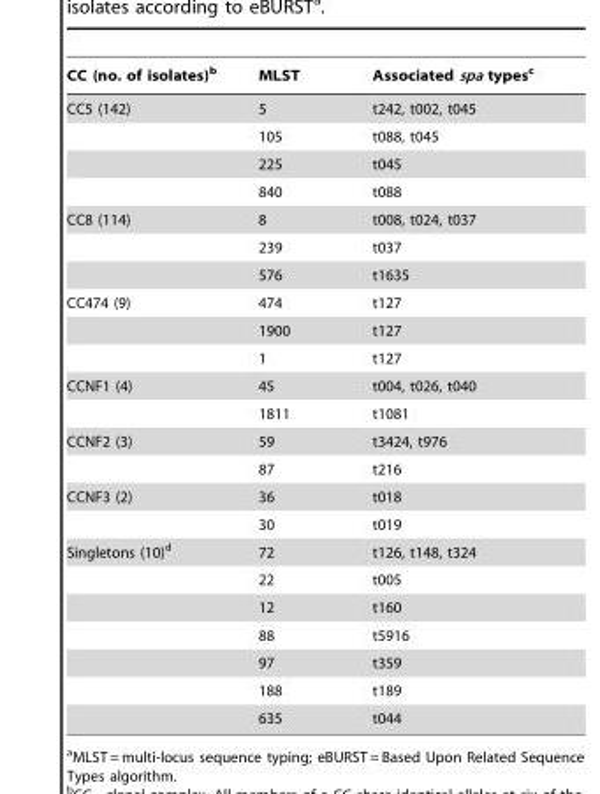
<table><thead><tr><td>CC (no. of isolates)<sup>b</sup></td><td>MLST</td><td>Associated spa types<sup>c</sup></td></tr></thead><tbody><tr><td rowspan="4">CC5 (142)</td><td>5</td><td>t242, t002, t045</td></tr><tr><td>105</td><td>t088, t045</td></tr><tr><td>225</td><td>t045</td></tr><tr><td>840</td><td>t088</td></tr><tr><td rowspan="3">CC8 (114)</td><td>8</td><td>t008, t024, t037</td></tr><tr><td>239</td><td>t037</td></tr><tr><td>576</td><td>t1635</td></tr><tr><td rowspan="3">CC474 (9)</td><td>474</td><td>t127</td></tr><tr><td>1900</td><td>t127</td></tr><tr><td>1</td><td>t127</td></tr><tr><td rowspan="2">CCNF1 (4)</td><td>45</td><td>t004, t026, t040</td></tr><tr><td>1811</td><td>t1081</td></tr><tr><td rowspan="2">CCNF2 (3)</td><td>59</td><td>t3424, t976</td></tr><tr><td>87</td><td>t216</td></tr><tr><td rowspan="2">CCNF3 (2)</td><td>36</td><td>t018</td></tr><tr><td>30</td><td>t019</td></tr><tr><td rowspan="7">Singletons (10)<sup>d</sup></td><td>72</td><td>t126, t148, t324</td></tr><tr><td>22</td><td>t005</td></tr><tr><td>12</td><td>t160</td></tr><tr><td>88</td><td>t5916</td></tr><tr><td>97</td><td>t359</td></tr><tr><td>188</td><td>t189</td></tr><tr><td>635</td><td>t044</td></tr></tbody></table>